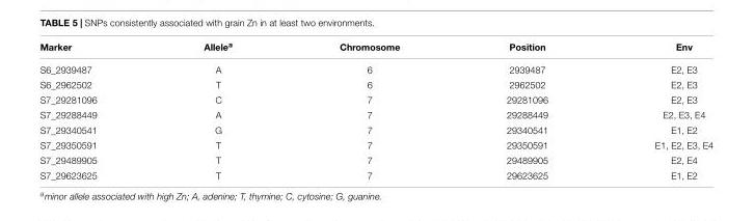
<table><thead><tr><td>Marker</td><td>Allele<sup>a</sup></td><td>Chromosome</td><td>Position</td><td>Env</td></tr></thead><tbody><tr><td>S6_2939487</td><td>A</td><td>6</td><td>2939487</td><td>E2, E3</td></tr><tr><td>S6_2962502</td><td>T</td><td>6</td><td>2962502</td><td>E2, E3</td></tr><tr><td>S7_29281096</td><td>C</td><td>7</td><td>29281096</td><td>E2, E3</td></tr><tr><td>S7_29288449</td><td>A</td><td>7</td><td>29288449</td><td>E2, E3, E4</td></tr><tr><td>S7_29340541</td><td>G</td><td>7</td><td>29340541</td><td>E1, E2</td></tr><tr><td>S7_29350591</td><td>T</td><td>7</td><td>29350591</td><td>E1, E2, E3, E4</td></tr><tr><td>S7_29489905</td><td>T</td><td>7</td><td>29489905</td><td>E2, E4</td></tr><tr><td>S7_29623625</td><td>T</td><td>7</td><td>29623625</td><td>E1, E2</td></tr></tbody></table>